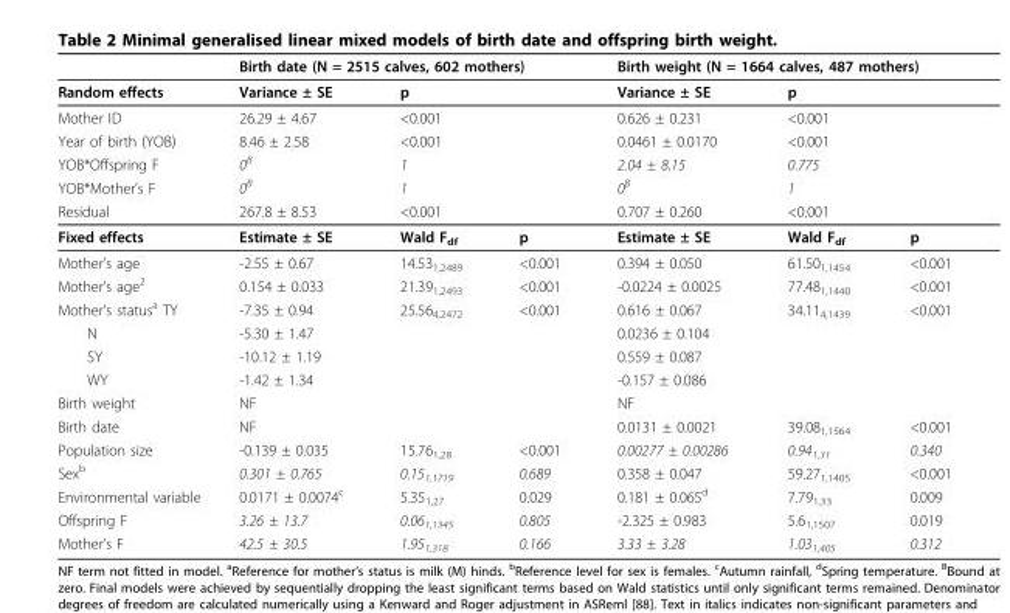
<table><thead><tr><td rowspan="2">Random effects</td><td colspan="3">Birth date (N = 2515 calves, 602 mothers)</td><td colspan="3">Birth weight (N = 1664 calves, 487 mothers)</td></tr><tr><td>Variance ± SE</td><td>p</td><td></td><td>Variance ± SE</td><td>p</td><td></td></tr></thead><tbody><tr><td>Mother ID</td><td>26.29 ± 4.67</td><td>&lt;0.001</td><td></td><td>0.626 ± 0.231</td><td>&lt;0.001</td><td></td></tr><tr><td>Year of birth (YOB)</td><td>8.46 ± 2.58</td><td>&lt;0.001</td><td></td><td>0.0461 ± 0.0170</td><td>&lt;0.001</td><td></td></tr><tr><td>YOB*Offspring F</td><td>0<sup>B</sup></td><td>1</td><td></td><td>2.04 ± 8.15</td><td>0.775</td><td></td></tr><tr><td>YOB*Mother’s F</td><td>0<sup>B</sup></td><td>1</td><td></td><td>0<sup>B</sup></td><td>1</td><td></td></tr><tr><td>Residual</td><td>267.8 ± 8.53</td><td>&lt;0.001</td><td></td><td>0.707 ± 0.260</td><td>&lt;0.001</td><td></td></tr><tr><td>Fixed effects</td><td>Estimate ± SE</td><td>Wald F<sub>df</sub></td><td>p</td><td>Estimate ± SE</td><td>Wald F<sub>df</sub></td><td>p</td></tr><tr><td>Mother’s age</td><td>-2.55 ± 0.67</td><td>14.53<sub>1,2489</sub></td><td>&lt;0.001</td><td>0.394 ± 0.050</td><td>61.50<sub>1,1454</sub></td><td>&lt;0.001</td></tr><tr><td>Mother’s age<sup>2</sup></td><td>0.154 ± 0.033</td><td>21.39<sub>1,2493</sub></td><td>&lt;0.001</td><td>-0.0224 ± 0.0025</td><td>77.48<sub>1,1440</sub></td><td>&lt;0.001</td></tr><tr><td>Mother’s status<sup>a</sup> TY</td><td>-7.35 ± 0.94</td><td>25.56<sub>4,2472</sub></td><td>&lt;0.001</td><td>0.616 ± 0.067</td><td>34.11<sub>4,1439</sub></td><td>&lt;0.001</td></tr><tr><td>N</td><td>-5.30 ± 1.47</td><td></td><td></td><td>0.0236 ± 0.104</td><td></td><td></td></tr><tr><td>SY</td><td>-10.12 ± 1.19</td><td></td><td></td><td>0.559 ± 0.087</td><td></td><td></td></tr><tr><td>WY</td><td>-1.42 ± 1.34</td><td></td><td></td><td>-0.157 ± 0.086</td><td></td><td></td></tr><tr><td>Birth weight</td><td>NF</td><td></td><td></td><td>NF</td><td></td><td></td></tr><tr><td>Birth date</td><td>NF</td><td></td><td></td><td>0.0131 ± 0.0021</td><td>39.08<sub>1,1564</sub></td><td>&lt;0.001</td></tr><tr><td>Population size</td><td>-0.139 ± 0.035</td><td>15.76<sub>1,28</sub></td><td>&lt;0.001</td><td>0.00277 ± 0.00286</td><td>0.94<sub>1,31</sub></td><td>0.340</td></tr><tr><td>Sex<sup>b</sup></td><td>0.301 ± 0.765</td><td>0.15<sub>1,1719</sub></td><td>0.689</td><td>0.358 ± 0.047</td><td>59.27<sub>1,1405</sub></td><td>&lt;0.001</td></tr><tr><td>Environmental variable</td><td>0.0171 ± 0.0074<sup>c</sup></td><td>5.35<sub>1,27</sub></td><td>0.029</td><td>0.181 ± 0.065<sup>d</sup></td><td>7.79<sub>1,33</sub></td><td>0.009</td></tr><tr><td>Offspring F</td><td>3.26 ± 13.7</td><td>0.06<sub>1,1345</sub></td><td>0.805</td><td>-2.325 ± 0.983</td><td>5.6<sub>1,1507</sub></td><td>0.019</td></tr><tr><td>Mother’s F</td><td>42.5 ± 30.5</td><td>1.95<sub>1,318</sub></td><td>0.166</td><td>3.33 ± 3.28</td><td>1.03<sub>1,405</sub></td><td>0.312</td></tr></tbody></table>